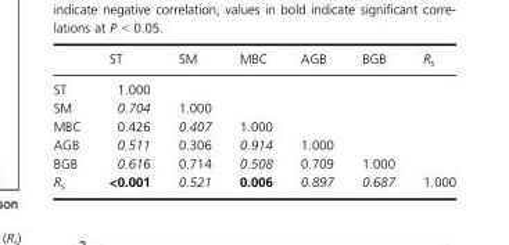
<table><thead><tr><td></td><td>ST</td><td>SM</td><td>MBC</td><td>AGB</td><td>BGB</td><td>R<sub>s</sub></td></tr></thead><tbody><tr><td>ST</td><td>1.000</td><td></td><td></td><td></td><td></td><td></td></tr><tr><td>SM</td><td>0.704</td><td>1.000</td><td></td><td></td><td></td><td></td></tr><tr><td>MBC</td><td>0.426</td><td>0.407</td><td>1.000</td><td></td><td></td><td></td></tr><tr><td>AGB</td><td>0.511</td><td>0.306</td><td>0.914</td><td>1.000</td><td></td><td></td></tr><tr><td>BGB</td><td>0.616</td><td>0.714</td><td>0.508</td><td>0.709</td><td>1.000</td><td></td></tr><tr><td>R<sub>s</sub></td><td>&lt;0.001</td><td>0.521</td><td>0.006</td><td>0.897</td><td>0.687</td><td>1.000</td></tr></tbody></table>